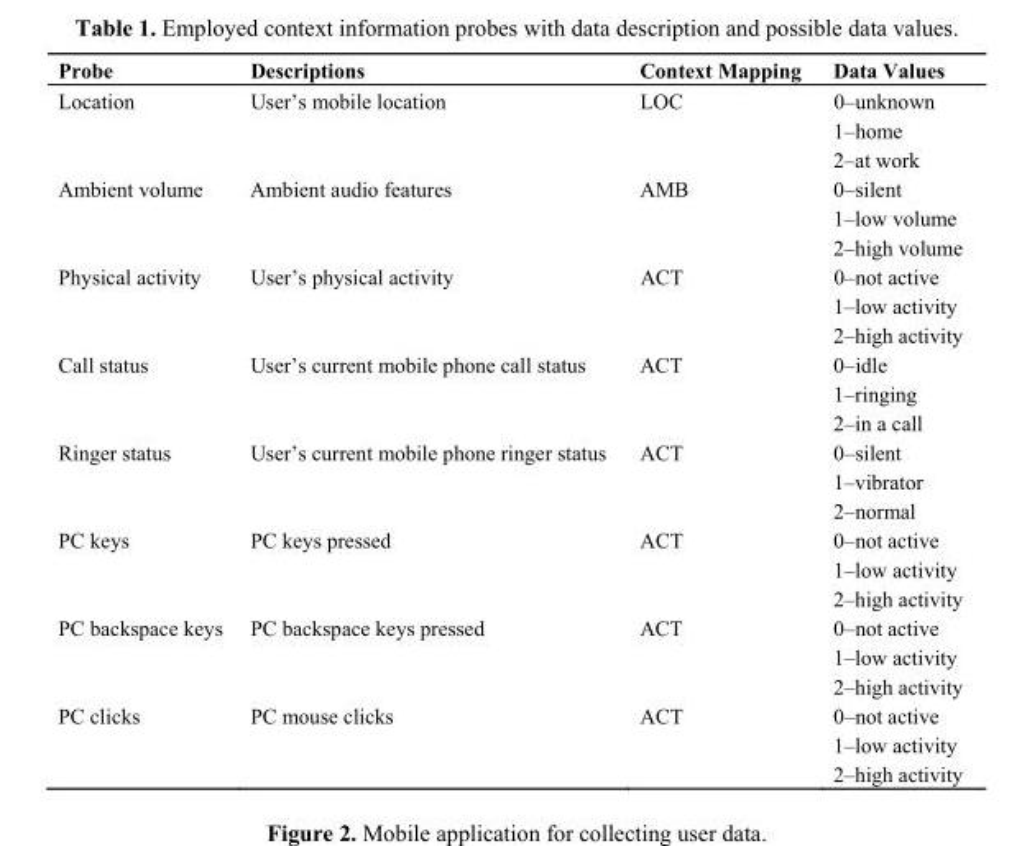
<table><thead><tr><td>Probe</td><td>Descriptions</td><td>Context Mapping</td><td>Data Values</td></tr></thead><tbody><tr><td rowspan="3">Location</td><td rowspan="3">User’s mobile location</td><td rowspan="3">LOC</td><td>0–unknown</td></tr><tr><td>1–home</td></tr><tr><td>2–at work</td></tr><tr><td rowspan="3">Ambient volume</td><td rowspan="3">Ambient audio features</td><td rowspan="3">AMB</td><td>0–silent</td></tr><tr><td>1–low volume</td></tr><tr><td>2–high volume</td></tr><tr><td rowspan="3">Physical activity</td><td rowspan="3">User’s physical activity</td><td rowspan="3">ACT</td><td>0–not active</td></tr><tr><td>1–low activity</td></tr><tr><td>2–high activity</td></tr><tr><td rowspan="3">Call status</td><td rowspan="3">User’s current mobile phone call status</td><td rowspan="3">ACT</td><td>0–idle</td></tr><tr><td>1–ringing</td></tr><tr><td>2–in a call</td></tr><tr><td rowspan="3">Ringer status</td><td rowspan="3">User’s current mobile phone ringer status</td><td rowspan="3">ACT</td><td>0–silent</td></tr><tr><td>1–vibrator</td></tr><tr><td>2–normal</td></tr><tr><td rowspan="3">PC keys</td><td rowspan="3">PC keys pressed</td><td rowspan="3">ACT</td><td>0–not active</td></tr><tr><td>1–low activity</td></tr><tr><td>2–high activity</td></tr><tr><td rowspan="3">PC backspace keys</td><td rowspan="3">PC backspace keys pressed</td><td rowspan="3">ACT</td><td>0–not active</td></tr><tr><td>1–low activity</td></tr><tr><td>2–high activity</td></tr><tr><td rowspan="3">PC clicks</td><td rowspan="3">PC mouse clicks</td><td rowspan="3">ACT</td><td>0–not active</td></tr><tr><td>1–low activity</td></tr><tr><td>2–high activity</td></tr></tbody></table>